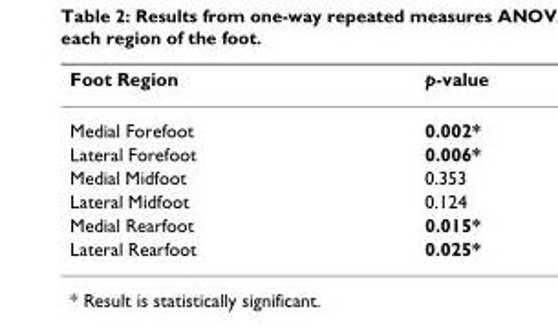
<table><thead><tr><td>Foot Region</td><td>p-value</td></tr></thead><tbody><tr><td>Medial Forefoot</td><td>0.002*</td></tr><tr><td>Lateral Forefoot</td><td>0.006*</td></tr><tr><td>Medial Midfoot</td><td>0.353</td></tr><tr><td>Lateral Midfoot</td><td>0.124</td></tr><tr><td>Medial Rearfoot</td><td>0.015*</td></tr><tr><td>Lateral Rearfoot</td><td>0.025*</td></tr></tbody></table>